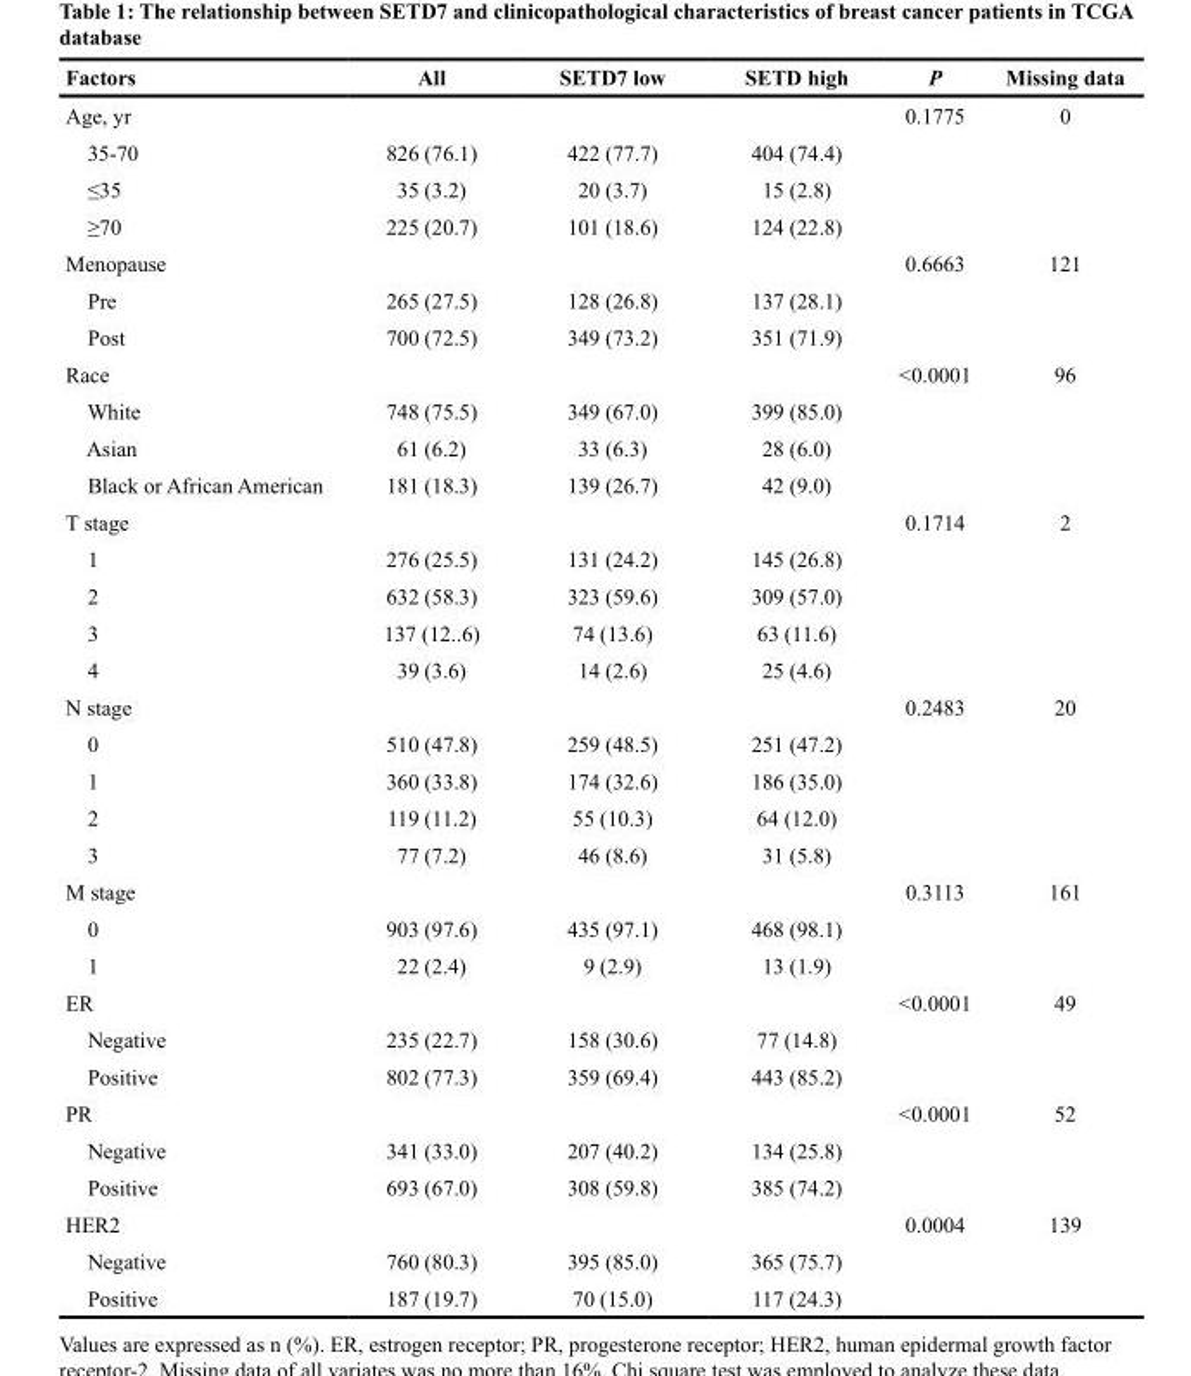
<table><thead><tr><td>Factors</td><td>All</td><td>SETD7 low</td><td>SETD high</td><td>P</td><td>Missing data</td></tr></thead><tbody><tr><td>Age, yr</td><td></td><td></td><td></td><td>0.1775</td><td>0</td></tr><tr><td>35-70</td><td>826 (76.1)</td><td>422 (77.7)</td><td>404 (74.4)</td><td></td><td></td></tr><tr><td>≤35</td><td>35 (3.2)</td><td>20 (3.7)</td><td>15 (2.8)</td><td></td><td></td></tr><tr><td>≥70</td><td>225 (20.7)</td><td>101 (18.6)</td><td>124 (22.8)</td><td></td><td></td></tr><tr><td>Menopause</td><td></td><td></td><td></td><td>0.6663</td><td>121</td></tr><tr><td>Pre</td><td>265 (27.5)</td><td>128 (26.8)</td><td>137 (28.1)</td><td></td><td></td></tr><tr><td>Post</td><td>700 (72.5)</td><td>349 (73.2)</td><td>351 (71.9)</td><td></td><td></td></tr><tr><td>Race</td><td></td><td></td><td></td><td>&lt;0.0001</td><td>96</td></tr><tr><td>White</td><td>748 (75.5)</td><td>349 (67.0)</td><td>399 (85.0)</td><td></td><td></td></tr><tr><td>Asian</td><td>61 (6.2)</td><td>33 (6.3)</td><td>28 (6.0)</td><td></td><td></td></tr><tr><td>Black or African American</td><td>181 (18.3)</td><td>139 (26.7)</td><td>42 (9.0)</td><td></td><td></td></tr><tr><td>T stage</td><td></td><td></td><td></td><td>0.1714</td><td>2</td></tr><tr><td>1</td><td>276 (25.5)</td><td>131 (24.2)</td><td>145 (26.8)</td><td></td><td></td></tr><tr><td>2</td><td>632 (58.3)</td><td>323 (59.6)</td><td>309 (57.0)</td><td></td><td></td></tr><tr><td>3</td><td>137 (12..6)</td><td>74 (13.6)</td><td>63 (11.6)</td><td></td><td></td></tr><tr><td>4</td><td>39 (3.6)</td><td>14 (2.6)</td><td>25 (4.6)</td><td></td><td></td></tr><tr><td>N stage</td><td></td><td></td><td></td><td>0.2483</td><td>20</td></tr><tr><td>0</td><td>510 (47.8)</td><td>259 (48.5)</td><td>251 (47.2)</td><td></td><td></td></tr><tr><td>1</td><td>360 (33.8)</td><td>174 (32.6)</td><td>186 (35.0)</td><td></td><td></td></tr><tr><td>2</td><td>119 (11.2)</td><td>55 (10.3)</td><td>64 (12.0)</td><td></td><td></td></tr><tr><td>3</td><td>77 (7.2)</td><td>46 (8.6)</td><td>31 (5.8)</td><td></td><td></td></tr><tr><td>M stage</td><td></td><td></td><td></td><td>0.3113</td><td>161</td></tr><tr><td>0</td><td>903 (97.6)</td><td>435 (97.1)</td><td>468 (98.1)</td><td></td><td></td></tr><tr><td>1</td><td>22 (2.4)</td><td>9 (2.9)</td><td>13 (1.9)</td><td></td><td></td></tr><tr><td>ER</td><td></td><td></td><td></td><td>&lt;0.0001</td><td>49</td></tr><tr><td>Negative</td><td>235 (22.7)</td><td>158 (30.6)</td><td>77 (14.8)</td><td></td><td></td></tr><tr><td>Positive</td><td>802 (77.3)</td><td>359 (69.4)</td><td>443 (85.2)</td><td></td><td></td></tr><tr><td>PR</td><td></td><td></td><td></td><td>&lt;0.0001</td><td>52</td></tr><tr><td>Negative</td><td>341 (33.0)</td><td>207 (40.2)</td><td>134 (25.8)</td><td></td><td></td></tr><tr><td>Positive</td><td>693 (67.0)</td><td>308 (59.8)</td><td>385 (74.2)</td><td></td><td></td></tr><tr><td>HER2</td><td></td><td></td><td></td><td>0.0004</td><td>139</td></tr><tr><td>Negative</td><td>760 (80.3)</td><td>395 (85.0)</td><td>365 (75.7)</td><td></td><td></td></tr><tr><td>Positive</td><td>187 (19.7)</td><td>70 (15.0)</td><td>117 (24.3)</td><td></td><td></td></tr></tbody></table>